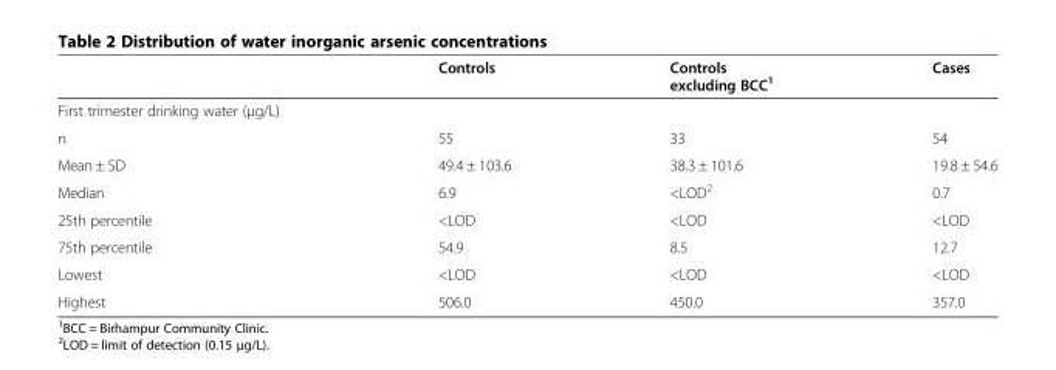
<table><thead><tr><td></td><td>Controls</td><td>Controls excluding BCC<sup>1</sup></td><td>Cases</td></tr></thead><tbody><tr><td colspan="4">First trimester drinking water (μg/L)</td></tr><tr><td>n</td><td>55</td><td>33</td><td>54</td></tr><tr><td>Mean ± SD</td><td>49.4 ± 103.6</td><td>38.3 ± 101.6</td><td>19.8 ± 54.6</td></tr><tr><td>Median</td><td>6.9</td><td>&lt;LOD<sup>2</sup></td><td>0.7</td></tr><tr><td>25th percentile</td><td>&lt;LOD</td><td>&lt;LOD</td><td>&lt;LOD</td></tr><tr><td>75th percentile</td><td>54.9</td><td>8.5</td><td>12.7</td></tr><tr><td>Lowest</td><td>&lt;LOD</td><td>&lt;LOD</td><td>&lt;LOD</td></tr><tr><td>Highest</td><td>506.0</td><td>450.0</td><td>357.0</td></tr></tbody></table>